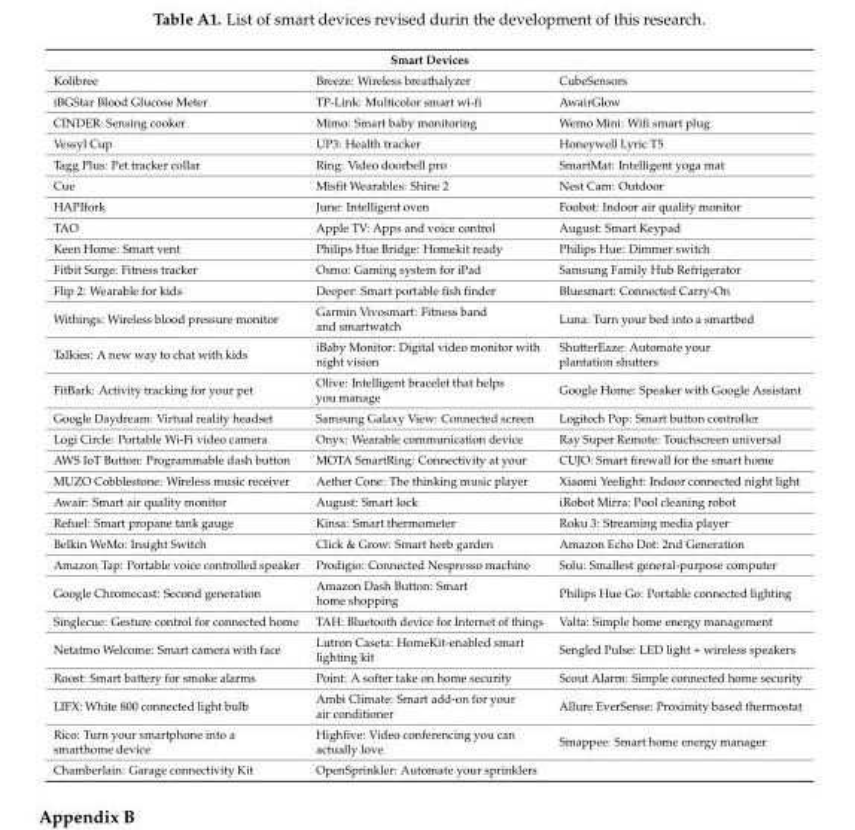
<table><thead><tr><td colspan="3">Smart Devices</td></tr><tr><td>Kolibree</td><td>Breeze: Wireless breathalyzer</td><td>CubeSensors</td></tr></thead><tbody><tr><td>iBGStar Blood Glucose Meter</td><td>TP-Link: Multicolor smart wi-fi</td><td>AwairGlow</td></tr><tr><td>CINDER: Sensing cooker</td><td>Mimo: Smart baby monitoring</td><td>Wemo Mini: Wifi smart plug</td></tr><tr><td>Vessyl Cup</td><td>UP3: Health tracker</td><td>Honeywell Lyric T5</td></tr><tr><td>Tagg Plus: Pet tracker collar</td><td>Ring: Video doorbell pro</td><td>SmartMat: Intelligent yoga mat</td></tr><tr><td>Cue</td><td>Misfit Wearables: Shine 2</td><td>Nest Cam: Outdoor</td></tr><tr><td>HAPIfork</td><td>June: Intelligent oven</td><td>Foobot: Indoor air quality monitor</td></tr><tr><td>TAO</td><td>Apple TV: Apps and voice control</td><td>August: Smart Keypad</td></tr><tr><td>Keen Home: Smart vent</td><td>Philips Hue Bridge: Homekit ready</td><td>Philips Hue: Dimmer switch</td></tr><tr><td>Fitbit Surge: Fitness tracker</td><td>Osmo: Gaming system for iPad</td><td>Samsung Family Hub Refrigerator</td></tr><tr><td>Flip 2: Wearable for kids</td><td>Deeper: Smart portable fish finder</td><td>Bluesmart: Connected Carry-On</td></tr><tr><td>Withings: Wireless blood pressure monitor</td><td>Garmin Vivosmart: Fitness band and smartwatch</td><td>Luna: Turn your bed into a smartbed</td></tr><tr><td>Talkies: A new way to chat with kids</td><td>iBaby Monitor: Digital video monitor with night vision</td><td>ShutterEaze: Automate your plantation shutters</td></tr><tr><td>FitBark: Activity tracking for your pet</td><td>Olive: Intelligent bracelet that helps you manage</td><td>Google Home: Speaker with Google Assistant</td></tr><tr><td>Google Daydream: Virtual reality headset</td><td>Samsung Galaxy View: Connected screen</td><td>Logitech Pop: Smart button controller</td></tr><tr><td>Logi Circle: Portable Wi-Fi video camera</td><td>Onyx: Wearable communication device</td><td>Ray Super Remote: Touchscreen universal</td></tr><tr><td>AWS IoT Button: Programmable dash button</td><td>MOTA SmartRing: Connectivity at your</td><td>CUJO: Smart firewall for the smart home</td></tr><tr><td>MUZO Cobblestone: Wireless music receiver</td><td>Aether Cone: The thinking music player</td><td>Xiaomi Yeelight: Indoor connected night light</td></tr><tr><td>Awair: Smart air quality monitor</td><td>August: Smart lock</td><td>iRobot Mirra: Pool cleaning robot</td></tr><tr><td>Refuel: Smart propane tank gauge</td><td>Kinsa: Smart thermometer</td><td>Roku 3: Streaming media player</td></tr><tr><td>Belkin WeMo: Insight Switch</td><td>Click &amp; Grow: Smart herb garden</td><td>Amazon Echo Dot: 2nd Generation</td></tr><tr><td>Amazon Tap: Portable voice controlled speaker</td><td>Prodigio: Connected Nespresso machine</td><td>Solu: Smallest general-purpose computer</td></tr><tr><td>Google Chromecast: Second generation</td><td>Amazon Dash Button: Smart home shopping</td><td>Philips Hue Go: Portable connected lighting</td></tr><tr><td>Singlecue: Gesture control for connected home</td><td>TAH: Bluetooth device for Internet of things</td><td>Valta: Simple home energy management</td></tr><tr><td>Netatmo Welcome: Smart camera with face</td><td>Lutron Caseta: HomeKit-enabled smart lighting kit</td><td>Sengled Pulse: LED light + wireless speakers</td></tr><tr><td>Roost: Smart battery for smoke alarms</td><td>Point: A softer take on home security</td><td>Scout Alarm: Simple connected home security</td></tr><tr><td>LIFX: White 800 connected light bulb</td><td>Ambi Climate: Smart add-on for your air conditioner</td><td>Allure EverSense: Proximity based thermostat</td></tr><tr><td>Rico: Turn your smartphone into a smarthome device</td><td>Highfive: Video conferencing you can actually love</td><td>Smappee: Smart home energy manager</td></tr><tr><td>Chamberlain: Garage connectivity Kit</td><td>OpenSprinkler: Automate your sprinklers</td><td></td></tr></tbody></table>